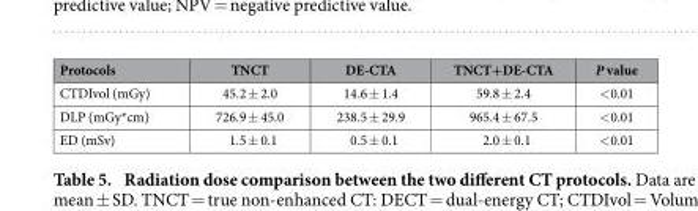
<table><thead><tr><td>Protocols</td><td>TNCT</td><td>DE-CTA</td><td>TNCT+DE-CTA</td><td>P value</td></tr></thead><tbody><tr><td>CTDIvol (mGy)</td><td>45.2 ± 2.0</td><td>14.6 ± 1.4</td><td>59.8 ± 2.4</td><td>&lt; 0.01</td></tr><tr><td>DLP (mGy*cm)</td><td>726.9 ± 45.0</td><td>238.5 ± 29.9</td><td>965.4 ± 67.5</td><td>&lt; 0.01</td></tr><tr><td>ED (mSv)</td><td>1.5 ± 0.1</td><td>0.5 ± 0.1</td><td>2.0 ± 0.1</td><td>&lt; 0.01</td></tr></tbody></table>